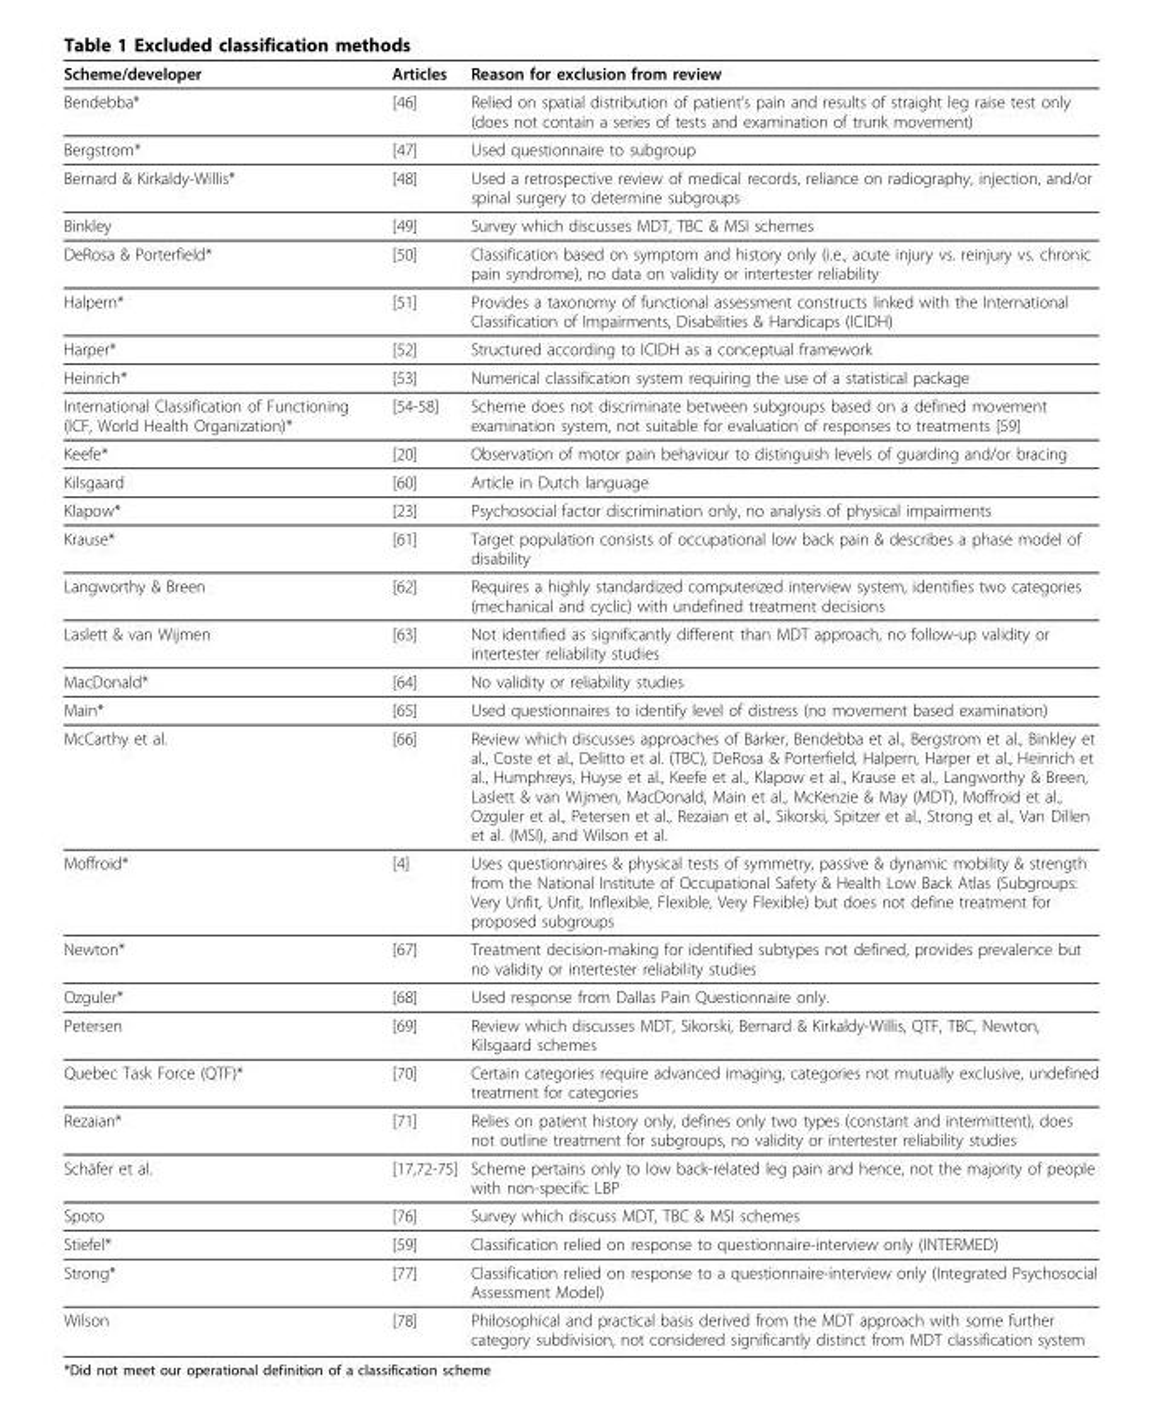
<table><thead><tr><td>Scheme/developer</td><td>Articles</td><td>Reason for exclusion from review</td></tr></thead><tbody><tr><td>Bendebba*</td><td>[46]</td><td>Relied on spatial distribution of patient’s pain and results of straight leg raise test only (does not contain a series of tests and examination of trunk movement)</td></tr><tr><td>Bergstrom*</td><td>[47]</td><td>Used questionnaire to subgroup</td></tr><tr><td>Bernard &amp; Kirkaldy-Willis*</td><td>[48]</td><td>Used a retrospective review of medical records, reliance on radiography, injection, and/or spinal surgery to determine subgroups</td></tr><tr><td>Binkley</td><td>[49]</td><td>Survey which discusses MDT, TBC &amp; MSI schemes</td></tr><tr><td>DeRosa &amp; Porterfield*</td><td>[50]</td><td>Classification based on symptom and history only (i.e., acute injury vs. reinjury vs. chronic pain syndrome), no data on validity or intertester reliability</td></tr><tr><td>Halpern*</td><td>[51]</td><td>Provides a taxonomy of functional assessment constructs linked with the International Classification of Impairments, Disabilities &amp; Handicaps (ICIDH)</td></tr><tr><td>Harper*</td><td>[52]</td><td>Structured according to ICIDH as a conceptual framework</td></tr><tr><td>Heinrich*</td><td>[53]</td><td>Numerical classification system requiring the use of a statistical package</td></tr><tr><td>International Classification of Functioning (ICF, World Health Organization)*</td><td>[54-58]</td><td>Scheme does not discriminate between subgroups based on a defined movement examination system, not suitable for evaluation of responses to treatments [59]</td></tr><tr><td>Keefe*</td><td>[20]</td><td>Observation of motor pain behaviour to distinguish levels of guarding and/or bracing</td></tr><tr><td>Kilsgaard</td><td>[60]</td><td>Article in Dutch language</td></tr><tr><td>Klapow*</td><td>[23]</td><td>Psychosocial factor discrimination only, no analysis of physical impairments</td></tr><tr><td>Krause*</td><td>[61]</td><td>Target population consists of occupational low back pain &amp; describes a phase model of disability</td></tr><tr><td>Langworthy &amp; Breen</td><td>[62]</td><td>Requires a highly standardized computerized interview system, identifies two categories (mechanical and cyclic) with undefined treatment decisions</td></tr><tr><td>Laslett &amp; van Wijmen</td><td>[63]</td><td>Not identified as significantly different than MDT approach, no follow-up validity or intertester reliability studies</td></tr><tr><td>MacDonald*</td><td>[64]</td><td>No validity or reliability studies</td></tr><tr><td>Main*</td><td>[65]</td><td>Used questionnaires to identify level of distress (no movement based examination)</td></tr><tr><td>McCarthy et al.</td><td>[66]</td><td>Review which discusses approaches of Barker, Bendebba et al., Bergstrom et al., Binkley et al., Coste et al., Delitto et al. (TBC), DeRosa &amp; Porterfield, Halpern, Harper et al., Heinrich et al., Humphreys, Huyse et al., Keefe et al., Klapow et al., Krause et al., Langworthy &amp; Breen, Laslett &amp; van Wijmen, MacDonald, Main et al., McKenzie &amp; May (MDT), Moffroid et al., Ozguler et al., Petersen et al., Rezaian et al., Sikorski, Spitzer et al., Strong et al., Van Dillen et al. (MSI), and Wilson et al.</td></tr><tr><td>Moffroid*</td><td>[4]</td><td>Uses questionnaires &amp; physical tests of symmetry, passive &amp; dynamic mobility &amp; strength from the National Institute of Occupational Safety &amp; Health Low Back Atlas (Subgroups: Very Unfit, Unfit, Inflexible, Flexible, Very Flexible) but does not define treatment for proposed subgroups</td></tr><tr><td>Newton*</td><td>[67]</td><td>Treatment decision-making for identified subtypes not defined, provides prevalence but no validity or intertester reliability studies</td></tr><tr><td>Ozguler*</td><td>[68]</td><td>Used response from Dallas Pain Questionnaire only.</td></tr><tr><td>Petersen</td><td>[69]</td><td>Review which discusses MDT, Sikorski, Bernard &amp; Kirkaldy-Willis, QTF, TBC, Newton, Kilsgaard schemes</td></tr><tr><td>Quebec Task Force (QTF)*</td><td>[70]</td><td>Certain categories require advanced imaging, categories not mutually exclusive, undefined treatment for categories</td></tr><tr><td>Rezaian*</td><td>[71]</td><td>Relies on patient history only, defines only two types (constant and intermittent), does not outline treatment for subgroups, no validity or intertester reliability studies</td></tr><tr><td>Schäfer et al.</td><td>[17,72-75]</td><td>Scheme pertains only to low back-related leg pain and hence, not the majority of people with non-specific LBP</td></tr><tr><td>Spoto</td><td>[76]</td><td>Survey which discuss MDT, TBC &amp; MSI schemes</td></tr><tr><td>Stiefel*</td><td>[59]</td><td>Classification relied on response to questionnaire-interview only (INTERMED)</td></tr><tr><td>Strong*</td><td>[77]</td><td>Classification relied on response to a questionnaire-interview only (Integrated Psychosocial Assessment Model)</td></tr><tr><td>Wilson</td><td>[78]</td><td>Philosophical and practical basis derived from the MDT approach with some further category subdivision, not considered significantly distinct from MDT classification system</td></tr></tbody></table>